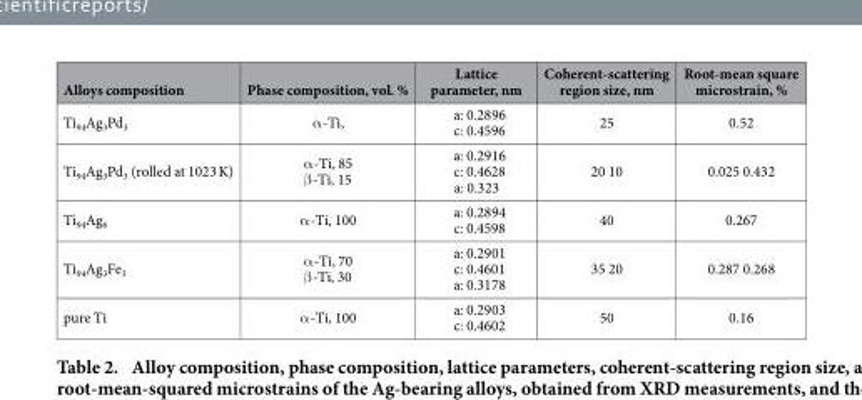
<table><thead><tr><td>Alloys composition</td><td>Phase composition, vol. %</td><td>Lattice parameter, nm</td><td>Coherent-scattering region size, nm</td><td>Root-mean square microstrain, %</td></tr></thead><tbody><tr><td>Ti<sub>94</sub>Ag<sub>3</sub>Pd<sub>3</sub></td><td>α -Ti,</td><td>a: 0.2896 c: 0.4596</td><td>25</td><td>0.52</td></tr><tr><td>Ti<sub>94</sub>Ag<sub>3</sub>Pd<sub>3</sub> (rolled at 1023 K)</td><td>α -Ti, 85 β -Ti, 15</td><td>a: 0.2916 c: 0.4628 a: 0.323</td><td>20 10</td><td>0.025 0.432</td></tr><tr><td>Ti<sub>94</sub>Ag<sub>6</sub></td><td>α -Ti, 100</td><td>a: 0.2894 c: 0.4598</td><td>40</td><td>0.267</td></tr><tr><td>Ti<sub>94</sub>Ag<sub>3</sub>Fe<sub>3</sub></td><td>α -Ti, 70 β -Ti, 30</td><td>a: 0.2901 c: 0.4601 a: 0.3178</td><td>35 20</td><td>0.287 0.268</td></tr><tr><td>pure Ti</td><td>α -Ti, 100</td><td>a: 0.2903 c: 0.4602</td><td>50</td><td>0.16</td></tr></tbody></table>